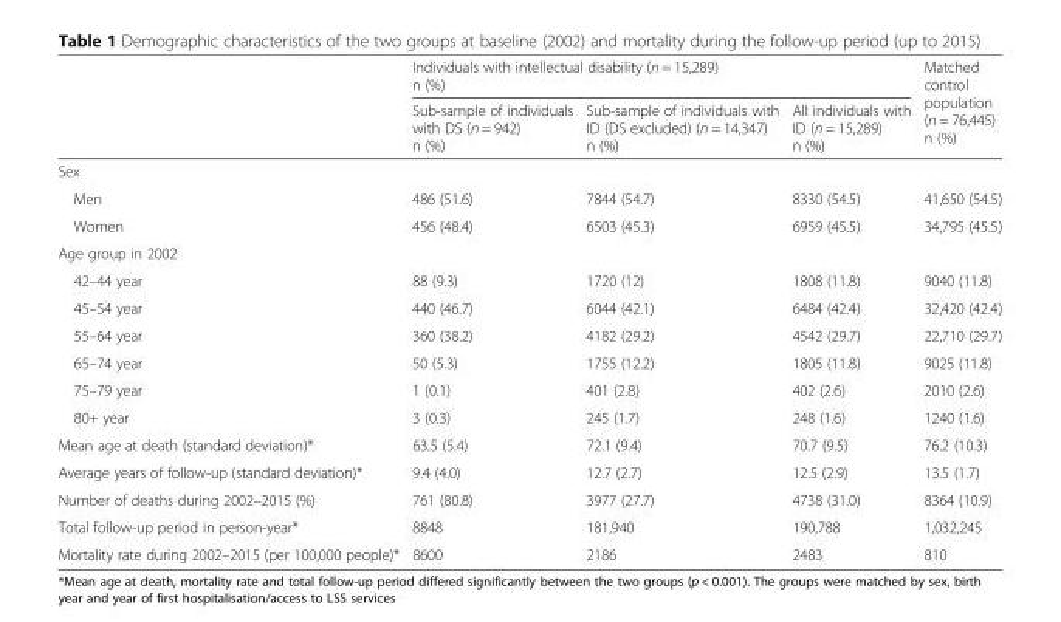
<table><thead><tr><td rowspan="2"></td><td colspan="3">Individuals with intellectual disability (n = 15,289) n (%)</td><td rowspan="2">Matched control population (n = 76,445) n (%)</td></tr><tr><td>Sub-sample of individuals with DS (n = 942) n (%)</td><td>Sub-sample of individuals with ID (DS excluded) (n = 14,347) n (%)</td><td>All individuals with ID (n = 15,289) n (%)</td></tr></thead><tbody><tr><td colspan="5">Sex</td></tr><tr><td>Men</td><td>486 (51.6)</td><td>7844 (54.7)</td><td>8330 (54.5)</td><td>41,650 (54.5)</td></tr><tr><td>Women</td><td>456 (48.4)</td><td>6503 (45.3)</td><td>6959 (45.5)</td><td>34,795 (45.5)</td></tr><tr><td colspan="5">Age group in 2002</td></tr><tr><td>42–44 year</td><td>88 (9.3)</td><td>1720 (12)</td><td>1808 (11.8)</td><td>9040 (11.8)</td></tr><tr><td>45–54 year</td><td>440 (46.7)</td><td>6044 (42.1)</td><td>6484 (42.4)</td><td>32,420 (42.4)</td></tr><tr><td>55–64 year</td><td>360 (38.2)</td><td>4182 (29.2)</td><td>4542 (29.7)</td><td>22,710 (29.7)</td></tr><tr><td>65–74 year</td><td>50 (5.3)</td><td>1755 (12.2)</td><td>1805 (11.8)</td><td>9025 (11.8)</td></tr><tr><td>75–79 year</td><td>1 (0.1)</td><td>401 (2.8)</td><td>402 (2.6)</td><td>2010 (2.6)</td></tr><tr><td>80+ year</td><td>3 (0.3)</td><td>245 (1.7)</td><td>248 (1.6)</td><td>1240 (1.6)</td></tr><tr><td>Mean age at death (standard deviation)*</td><td>63.5 (5.4)</td><td>72.1 (9.4)</td><td>70.7 (9.5)</td><td>76.2 (10.3)</td></tr><tr><td>Average years of follow-up (standard deviation)*</td><td>9.4 (4.0)</td><td>12.7 (2.7)</td><td>12.5 (2.9)</td><td>13.5 (1.7)</td></tr><tr><td>Number of deaths during 2002–2015 (%)</td><td>761 (80.8)</td><td>3977 (27.7)</td><td>4738 (31.0)</td><td>8364 (10.9)</td></tr><tr><td>Total follow-up period in person-year*</td><td>8848</td><td>181,940</td><td>190,788</td><td>1,032,245</td></tr><tr><td>Mortality rate during 2002–2015 (per 100,000 people)*</td><td>8600</td><td>2186</td><td>2483</td><td>810</td></tr></tbody></table>